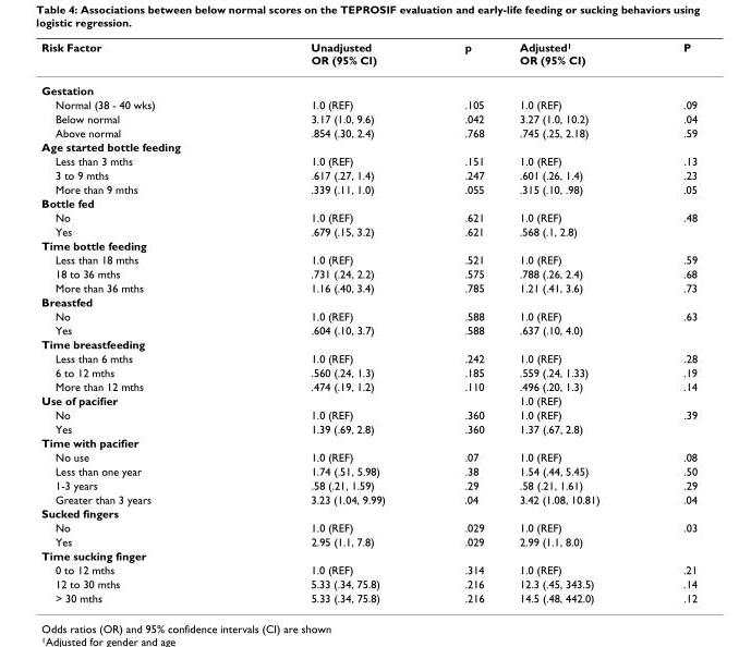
<table><thead><tr><td>Risk Factor</td><td>Unadjusted OR (95% CI)</td><td>p</td><td>Adjusted<sup>1</sup> OR (95% CI)</td><td>P</td></tr></thead><tbody><tr><td colspan="5">Gestation</td></tr><tr><td>Normal (38 - 40 wks)</td><td>1.0 (REF)</td><td>.105</td><td>1.0 (REF)</td><td>.09</td></tr><tr><td>Below normal</td><td>3.17 (1.0, 9.6)</td><td>.042</td><td>3.27 (1.0, 10.2)</td><td>.04</td></tr><tr><td>Above normal</td><td>.854 (.30, 2.4)</td><td>.768</td><td>.745 (.25, 2.18)</td><td>.59</td></tr><tr><td colspan="5">Age started bottle feeding</td></tr><tr><td>Less than 3 mths</td><td>1.0 (REF)</td><td>.151</td><td>1.0 (REF)</td><td>.13</td></tr><tr><td>3 to 9 mths</td><td>.617 (.27, 1.4)</td><td>.247</td><td>.601 (.26, 1.4)</td><td>.23</td></tr><tr><td>More than 9 mths</td><td>.339 (.11, 1.0)</td><td>.055</td><td>.315 (.10, .98)</td><td>.05</td></tr><tr><td colspan="5">Bottle fed</td></tr><tr><td>No</td><td>1.0 (REF)</td><td>.621</td><td>1.0 (REF)</td><td>.48</td></tr><tr><td>Yes</td><td>.679 (.15, 3.2)</td><td>.621</td><td>.568 (.1, 2.8)</td><td></td></tr><tr><td colspan="5">Time bottle feeding</td></tr><tr><td>Less than 18 mths</td><td>1.0 (REF)</td><td>.521</td><td>1.0 (REF)</td><td>.59</td></tr><tr><td>18 to 36 mths</td><td>.731 (.24, 2.2)</td><td>.575</td><td>.788 (.26, 2.4)</td><td>.68</td></tr><tr><td>More than 36 mths</td><td>1.16 (.40, 3.4)</td><td>.785</td><td>1.21 (.41, 3.6)</td><td>.73</td></tr><tr><td colspan="5">Breastfed</td></tr><tr><td>No</td><td>1.0 (REF)</td><td>.588</td><td>1.0 (REF)</td><td>.63</td></tr><tr><td>Yes</td><td>.604 (.10, 3.7)</td><td>.588</td><td>.637 (.10, 4.0)</td><td></td></tr><tr><td colspan="5">Time breastfeeding</td></tr><tr><td>Less than 6 mths</td><td>1.0 (REF)</td><td>.242</td><td>1.0 (REF)</td><td>.28</td></tr><tr><td>6 to 12 mths</td><td>.560 (.24, 1.3)</td><td>.185</td><td>.559 (.24, 1.33)</td><td>.19</td></tr><tr><td>More than 12 mths</td><td>.474 (.19, 1.2)</td><td>.110</td><td>.496 (.20, 1.3)</td><td>.14</td></tr><tr><td>Use of pacifier</td><td></td><td></td><td>1.0 (REF)</td><td></td></tr><tr><td>No</td><td>1.0 (REF)</td><td>.360</td><td>1.0 (REF)</td><td>.39</td></tr><tr><td>Yes</td><td>1.39 (.69, 2.8)</td><td>.360</td><td>1.37 (.67, 2.8)</td><td></td></tr><tr><td colspan="5">Time with pacifier</td></tr><tr><td>No use</td><td>1.0 (REF)</td><td>.07</td><td>1.0 (REF)</td><td>.08</td></tr><tr><td>Less than one year</td><td>1.74 (.51, 5.98)</td><td>.38</td><td>1.54 (.44, 5.45)</td><td>.50</td></tr><tr><td>1-3 years</td><td>.58 (.21, 1.59)</td><td>.29</td><td>.58 (.21, 1.61)</td><td>.29</td></tr><tr><td>Greater than 3 years</td><td>3.23 (1.04, 9.99)</td><td>.04</td><td>3.42 (1.08, 10.81)</td><td>.04</td></tr><tr><td colspan="5">Sucked fingers</td></tr><tr><td>No</td><td>1.0 (REF)</td><td>.029</td><td>1.0 (REF)</td><td>.03</td></tr><tr><td>Yes</td><td>2.95 (1.1, 7.8)</td><td>.029</td><td>2.99 (1.1, 8.0)</td><td></td></tr><tr><td colspan="5">Time sucking finger</td></tr><tr><td>0 to 12 mths</td><td>1.0 (REF)</td><td>.314</td><td>1.0 (REF)</td><td>.21</td></tr><tr><td>12 to 30 mths</td><td>5.33 (.34, 75.8)</td><td>.216</td><td>12.3 (.45, 343.5)</td><td>.14</td></tr><tr><td>&gt; 30 mths</td><td>5.33 (.34, 75.8)</td><td>.216</td><td>14.5 (.48, 442.0)</td><td>.12</td></tr></tbody></table>